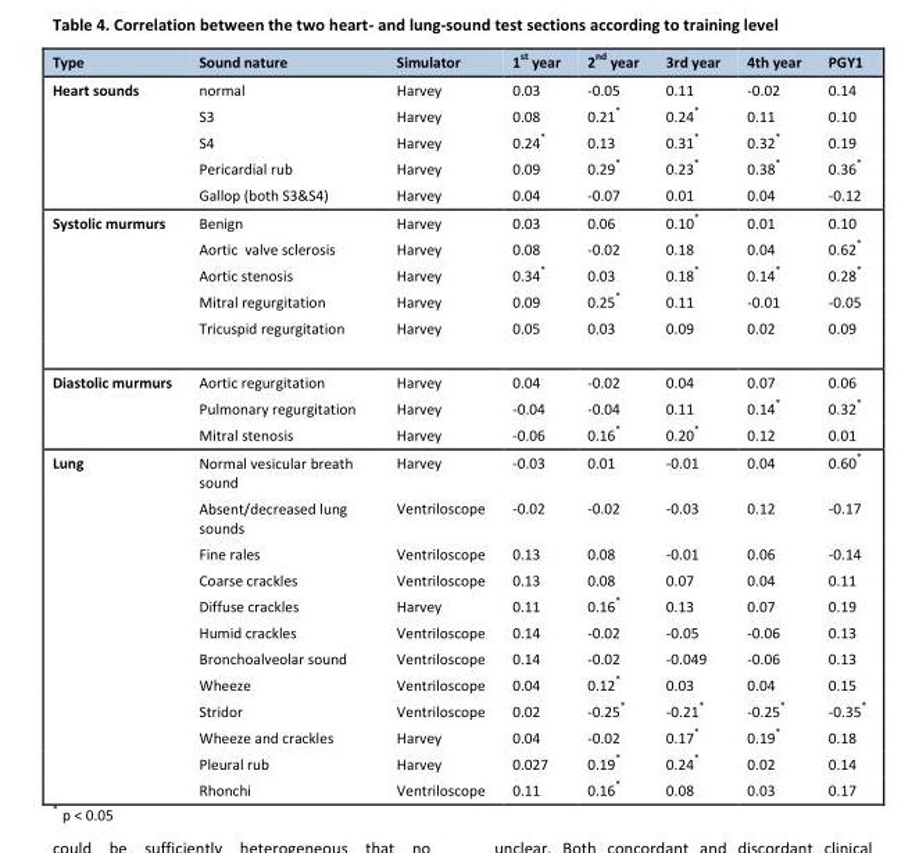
<table><thead><tr><td>Type</td><td>Sound nature</td><td>Simulator</td><td>1<sup>st</sup> year</td><td>2<sup>nd</sup> year</td><td>3rd year</td><td>4th year</td><td>PGY1</td></tr></thead><tbody><tr><td rowspan="5">Heart sounds</td><td>normal</td><td>Harvey</td><td>0.03</td><td>-0.05</td><td>0.11</td><td>-0.02</td><td>0.14</td></tr><tr><td>S3</td><td>Harvey</td><td>0.08</td><td>0.21*</td><td>0.24*</td><td>0.11</td><td>0.10</td></tr><tr><td>S4</td><td>Harvey</td><td>0.24*</td><td>0.13</td><td>0.31*</td><td>0.32*</td><td>0.19</td></tr><tr><td>Pericardial rub</td><td>Harvey</td><td>0.09</td><td>0.29*</td><td>0.23*</td><td>0.38*</td><td>0.36*</td></tr><tr><td>Gallop (both S3&amp;S4)</td><td>Harvey</td><td>0.04</td><td>-0.07</td><td>0.01</td><td>0.04</td><td>-0.12</td></tr><tr><td rowspan="5">Systolic murmurs</td><td>Benign</td><td>Harvey</td><td>0.03</td><td>0.06</td><td>0.10*</td><td>0.01</td><td>0.10</td></tr><tr><td>Aortic valve sclerosis</td><td>Harvey</td><td>0.08</td><td>-0.02</td><td>0.18</td><td>0.04</td><td>0.62*</td></tr><tr><td>Aortic stenosis</td><td>Harvey</td><td>0.34*</td><td>0.03</td><td>0.18*</td><td>0.14*</td><td>0.28*</td></tr><tr><td>Mitral regurgitation</td><td>Harvey</td><td>0.09</td><td>0.25*</td><td>0.11</td><td>-0.01</td><td>-0.05</td></tr><tr><td>Tricuspid regurgitation</td><td>Harvey</td><td>0.05</td><td>0.03</td><td>0.09</td><td>0.02</td><td>0.09</td></tr><tr><td rowspan="3">Diastolic murmurs</td><td>Aortic regurgitation</td><td>Harvey</td><td>0.04</td><td>-0.02</td><td>0.04</td><td>0.07</td><td>0.06</td></tr><tr><td>Pulmonary regurgitation</td><td>Harvey</td><td>-0.04</td><td>-0.04</td><td>0.11</td><td>0.14*</td><td>0.32*</td></tr><tr><td>Mitral stenosis</td><td>Harvey</td><td>-0.06</td><td>0.16*</td><td>0.20*</td><td>0.12</td><td>0.01</td></tr><tr><td rowspan="12">Lung</td><td>Normal vesicular breath sound</td><td>Harvey</td><td>-0.03</td><td>0.01</td><td>-0.01</td><td>0.04</td><td>0.60*</td></tr><tr><td>Absent/decreased lung sounds</td><td>Ventriloscope</td><td>-0.02</td><td>-0.02</td><td>-0.03</td><td>0.12</td><td>-0.17</td></tr><tr><td>Fine rales</td><td>Ventriloscope</td><td>0.13</td><td>0.08</td><td>-0.01</td><td>0.06</td><td>-0.14</td></tr><tr><td>Coarse crackles</td><td>Ventriloscope</td><td>0.13</td><td>0.08</td><td>0.07</td><td>0.04</td><td>0.11</td></tr><tr><td>Diffuse crackles</td><td>Harvey</td><td>0.11</td><td>0.16*</td><td>0.13</td><td>0.07</td><td>0.19</td></tr><tr><td>Humid crackles</td><td>Ventriloscope</td><td>0.14</td><td>-0.02</td><td>-0.05</td><td>-0.06</td><td>0.13</td></tr><tr><td>Bronchoalveolar sound</td><td>Ventriloscope</td><td>0.14</td><td>-0.02</td><td>-0.049</td><td>-0.06</td><td>0.13</td></tr><tr><td>Wheeze</td><td>Ventriloscope</td><td>0.04</td><td>0.12*</td><td>0.03</td><td>0.04</td><td>0.15</td></tr><tr><td>Stridor</td><td>Ventriloscope</td><td>0.02</td><td>-0.25*</td><td>-0.21*</td><td>-0.25*</td><td>-0.35*</td></tr><tr><td>Wheeze and crackles</td><td>Harvey</td><td>0.04</td><td>-0.02</td><td>0.17*</td><td>0.19*</td><td>0.18</td></tr><tr><td>Pleural rub</td><td>Harvey</td><td>0.027</td><td>0.19*</td><td>0.24*</td><td>0.02</td><td>0.14</td></tr><tr><td>Rhonchi</td><td>Ventriloscope</td><td>0.11</td><td>0.16*</td><td>0.08</td><td>0.03</td><td>0.17</td></tr></tbody></table>